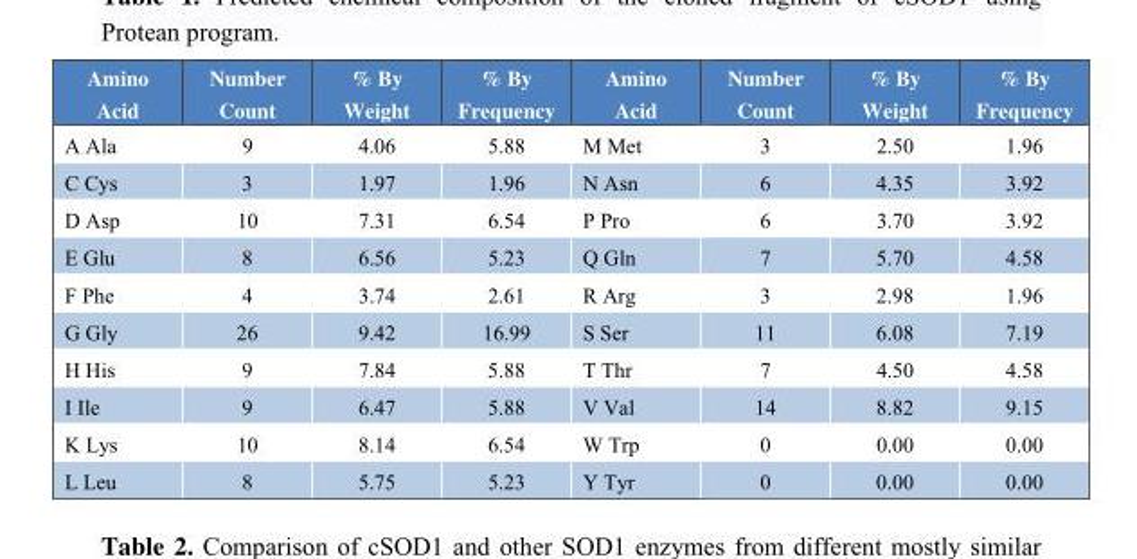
<table><thead><tr><td>Amino Acid</td><td>Number Count</td><td>% By Weight</td><td>% By Frequency</td><td>Amino Acid</td><td>Number Count</td><td>% By Weight</td><td>% By Frequency</td></tr></thead><tbody><tr><td>A Ala</td><td>9</td><td>4.06</td><td>5.88</td><td>M Met</td><td>3</td><td>2.50</td><td>1.96</td></tr><tr><td>C Cys</td><td>3</td><td>1.97</td><td>1.96</td><td>N Asn</td><td>6</td><td>4.35</td><td>3.92</td></tr><tr><td>D Asp</td><td>10</td><td>7.31</td><td>6.54</td><td>P Pro</td><td>6</td><td>3.70</td><td>3.92</td></tr><tr><td>E Glu</td><td>8</td><td>6.56</td><td>5.23</td><td>Q Gln</td><td>7</td><td>5.70</td><td>4.58</td></tr><tr><td>F Phe</td><td>4</td><td>3.74</td><td>2.61</td><td>R Arg</td><td>3</td><td>2.98</td><td>1.96</td></tr><tr><td>G Gly</td><td>26</td><td>9.42</td><td>16.99</td><td>S Ser</td><td>11</td><td>6.08</td><td>7.19</td></tr><tr><td>H His</td><td>9</td><td>7.84</td><td>5.88</td><td>T Thr</td><td>7</td><td>4.50</td><td>4.58</td></tr><tr><td>I Ile</td><td>9</td><td>6.47</td><td>5.88</td><td>V Val</td><td>14</td><td>8.82</td><td>9.15</td></tr><tr><td>K Lys</td><td>10</td><td>8.14</td><td>6.54</td><td>W Trp</td><td>0</td><td>0.00</td><td>0.00</td></tr><tr><td>L Leu</td><td>8</td><td>5.75</td><td>5.23</td><td>Y Tyr</td><td>0</td><td>0.00</td><td>0.00</td></tr></tbody></table>